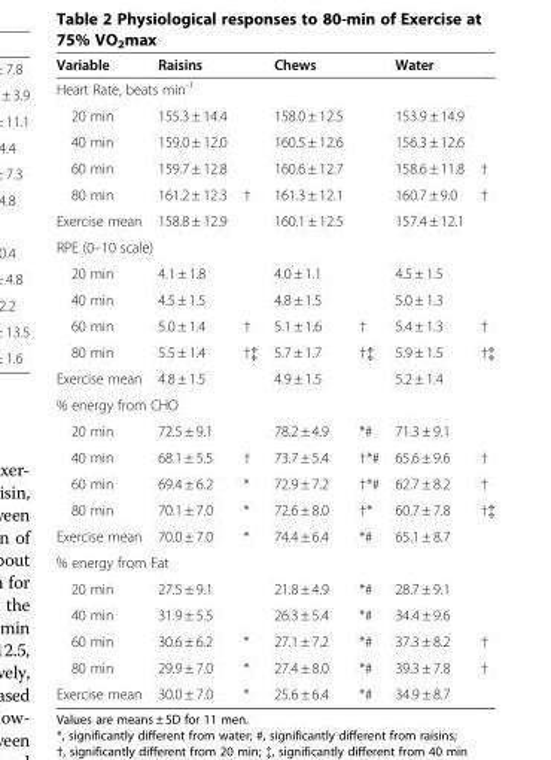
<table><thead><tr><td>Variable</td><td>Raisins</td><td></td><td>Chews</td><td></td><td>Water</td><td></td></tr></thead><tbody><tr><td colspan="7">Heart Rate, beats min<sup>-1</sup></td></tr><tr><td>20 min</td><td>155.3 ± 14.4</td><td></td><td>158.0 ± 12.5</td><td></td><td>153.9 ± 14.9</td><td></td></tr><tr><td>40 min</td><td>159.0 ± 12.0</td><td></td><td>160.5 ± 12.6</td><td></td><td>156.3 ± 12.6</td><td></td></tr><tr><td>60 min</td><td>159.7 ± 12.8</td><td></td><td>160.6 ± 12.7</td><td></td><td>158.6 ± 11.8</td><td>†</td></tr><tr><td>80 min</td><td>161.2 ± 12.3</td><td>†</td><td>161.3 ± 12.1</td><td></td><td>160.7 ± 9.0</td><td>†</td></tr><tr><td>Exercise mean</td><td>158.8 ± 12.9</td><td></td><td>160.1 ± 12.5</td><td></td><td>157.4 ± 12.1</td><td></td></tr><tr><td colspan="7">RPE (0–10 scale)</td></tr><tr><td>20 min</td><td>4.1 ± 1.8</td><td></td><td>4.0 ± 1.1</td><td></td><td>4.5 ± 1.5</td><td></td></tr><tr><td>40 min</td><td>4.5 ± 1.5</td><td></td><td>4.8 ± 1.5</td><td></td><td>5.0 ± 1.3</td><td></td></tr><tr><td>60 min</td><td>5.0 ± 1.4</td><td>†</td><td>5.1 ± 1.6</td><td>†</td><td>5.4 ± 1.3</td><td>†</td></tr><tr><td>80 min</td><td>5.5 ± 1.4</td><td>†‡</td><td>5.7 ± 1.7</td><td>†‡</td><td>5.9 ± 1.5</td><td>†‡</td></tr><tr><td>Exercise mean</td><td>4.8 ± 1.5</td><td></td><td>4.9 ± 1.5</td><td></td><td>5.2 ± 1.4</td><td></td></tr><tr><td colspan="7">% energy from CHO</td></tr><tr><td>20 min</td><td>72.5 ± 9.1</td><td></td><td>78.2 ± 4.9</td><td>*#</td><td>71.3 ± 9.1</td><td></td></tr><tr><td>40 min</td><td>68.1 ± 5.5</td><td>†</td><td>73.7 ± 5.4</td><td>†*#</td><td>65.6 ± 9.6</td><td>†</td></tr><tr><td>60 min</td><td>69.4 ± 6.2</td><td>*</td><td>72.9 ± 7.2</td><td>†*#</td><td>62.7 ± 8.2</td><td>†</td></tr><tr><td>80 min</td><td>70.1 ± 7.0</td><td>*</td><td>72.6 ± 8.0</td><td>†*</td><td>60.7 ± 7.8</td><td>†‡</td></tr><tr><td>Exercise mean</td><td>70.0 ± 7.0</td><td>*</td><td>74.4 ± 6.4</td><td>*#</td><td>65.1 ± 8.7</td><td></td></tr><tr><td colspan="7">% energy from Fat</td></tr><tr><td>20 min</td><td>27.5 ± 9.1</td><td></td><td>21.8 ± 4.9</td><td>*#</td><td>28.7 ± 9.1</td><td></td></tr><tr><td>40 min</td><td>31.9 ± 5.5</td><td></td><td>26.3 ± 5.4</td><td>*#</td><td>34.4 ± 9.6</td><td></td></tr><tr><td>60 min</td><td>30.6 ± 6.2</td><td>*</td><td>27.1 ± 7.2</td><td>*#</td><td>37.3 ± 8.2</td><td>†</td></tr><tr><td>80 min</td><td>29.9 ± 7.0</td><td>*</td><td>27.4 ± 8.0</td><td>*#</td><td>39.3 ± 7.8</td><td>†</td></tr><tr><td>Exercise mean</td><td>30.0 ± 7.0</td><td>*</td><td>25.6 ± 6.4</td><td>*#</td><td>34.9 ± 8.7</td><td></td></tr></tbody></table>